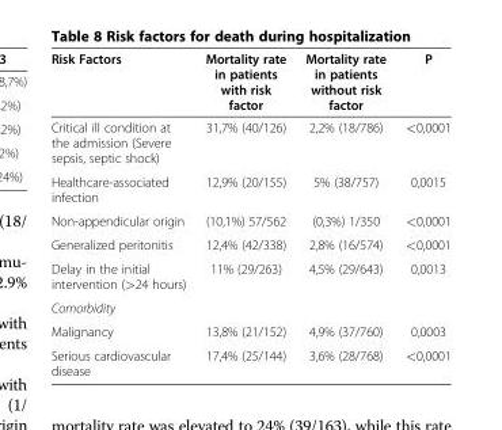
<table><thead><tr><td>Risk Factors</td><td>Mortality rate in patients with risk factor</td><td>Mortality rate in patients without risk factor</td><td>P</td></tr></thead><tbody><tr><td>Critical ill condition at the admission (Severe sepsis, septic shock)</td><td>31,7% (40/126)</td><td>2,2% (18/786)</td><td>&lt;0,0001</td></tr><tr><td>Healthcare-associated infection</td><td>12,9% (20/155)</td><td>5% (38/757)</td><td>0,0015</td></tr><tr><td>Non-appendicular origin</td><td>(10,1%) 57/562</td><td>(0,3%) 1/350</td><td>&lt;0,0001</td></tr><tr><td>Generalized peritonitis</td><td>12,4% (42/338)</td><td>2,8% (16/574)</td><td>&lt;0,0001</td></tr><tr><td>Delay in the initial intervention (&gt;24 hours)</td><td>11% (29/263)</td><td>4,5% (29/643)</td><td>0,0013</td></tr><tr><td colspan="4">Comorbidity</td></tr><tr><td>Malignancy</td><td>13,8% (21/152)</td><td>4,9% (37/760)</td><td>0,0003</td></tr><tr><td>Serious cardiovascular disease</td><td>17,4% (25/144)</td><td>3,6% (28/768)</td><td>&lt;0,0001</td></tr></tbody></table>